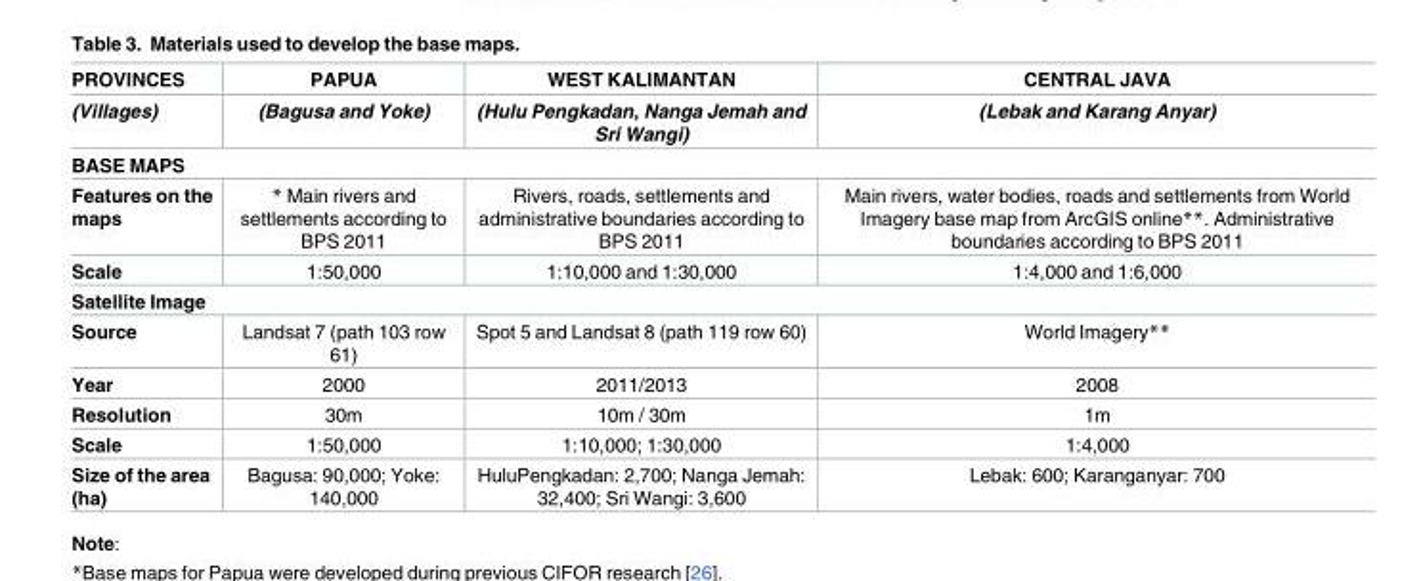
<table><thead><tr><td rowspan="2">PROVINCES (Villages)</td><td rowspan="2">PAPUA (Bagusa and Yoke)</td><td rowspan="2">WEST KALIMANTAN (Hulu Pengkadan, Nanga Jemah and Sri Wangi)</td><td rowspan="2">CENTRAL JAVA (Lebak and Karang Anyar)</td></tr><tr></tr></thead><tbody><tr><td colspan="4">BASE MAPS</td></tr><tr><td>Features on the maps</td><td>* Main rivers and settlements according to BPS 2011</td><td>Rivers, roads, settlements and administrative boundaries according to BPS 2011</td><td>Main rivers, water bodies, roads and settlements from World Imagery base map from ArcGIS online**. Administrative boundaries according to BPS 2011</td></tr><tr><td>Scale</td><td>1:50,000</td><td>1:10,000 and 1:30,000</td><td>1:4,000 and 1:6,000</td></tr><tr><td colspan="4">Satellite Image</td></tr><tr><td>Source</td><td>Landsat 7 (path 103 row 61)</td><td>Spot 5 and Landsat 8 (path 119 row 60)</td><td>World Imagery**</td></tr><tr><td>Year</td><td>2000</td><td>2011/2013</td><td>2008</td></tr><tr><td>Resolution</td><td>30m</td><td>10m / 30m</td><td>1m</td></tr><tr><td>Scale</td><td>1:50,000</td><td>1:10,000; 1:30,000</td><td>1:4,000</td></tr><tr><td>Size of the area (ha)</td><td>Bagusa: 90,000; Yoke: 140,000</td><td>HuluPengkadan: 2,700; Nanga Jemah: 32,400; Sri Wangi: 3,600</td><td>Lebak: 600; Karanganyar: 700</td></tr></tbody></table>